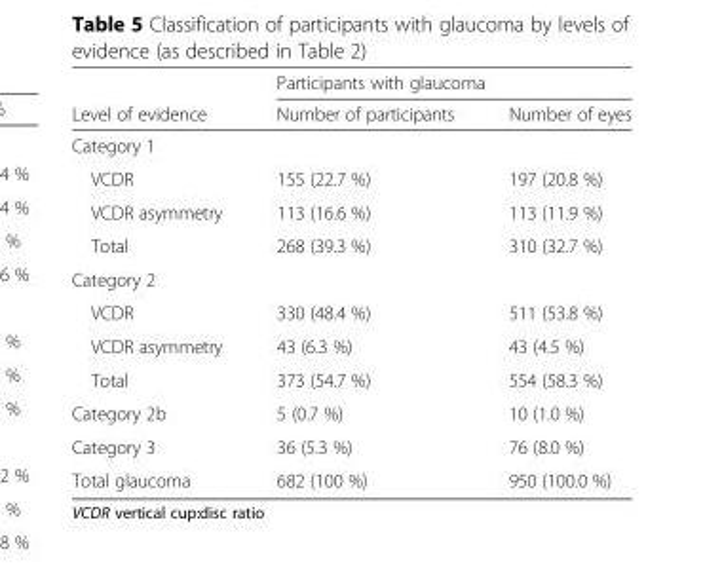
<table><thead><tr><td rowspan="2">Level of evidence</td><td colspan="2">Participants with glaucoma</td></tr><tr><td>Number of participants</td><td>Number of eyes</td></tr></thead><tbody><tr><td colspan="3">Category 1</td></tr><tr><td>VCDR</td><td>155 (22.7 %)</td><td>197 (20.8 %)</td></tr><tr><td>VCDR asymmetry</td><td>113 (16.6 %)</td><td>113 (11.9 %)</td></tr><tr><td>Total</td><td>268 (39.3 %)</td><td>310 (32.7 %)</td></tr><tr><td colspan="3">Category 2</td></tr><tr><td>VCDR</td><td>330 (48.4 %)</td><td>511 (53.8 %)</td></tr><tr><td>VCDR asymmetry</td><td>43 (6.3 %)</td><td>43 (4.5 %)</td></tr><tr><td>Total</td><td>373 (54.7 %)</td><td>554 (58.3 %)</td></tr><tr><td>Category 2b</td><td>5 (0.7 %)</td><td>10 (1.0 %)</td></tr><tr><td>Category 3</td><td>36 (5.3 %)</td><td>76 (8.0 %)</td></tr><tr><td>Total glaucoma</td><td>682 (100 %)</td><td>950 (100.0 %)</td></tr></tbody></table>